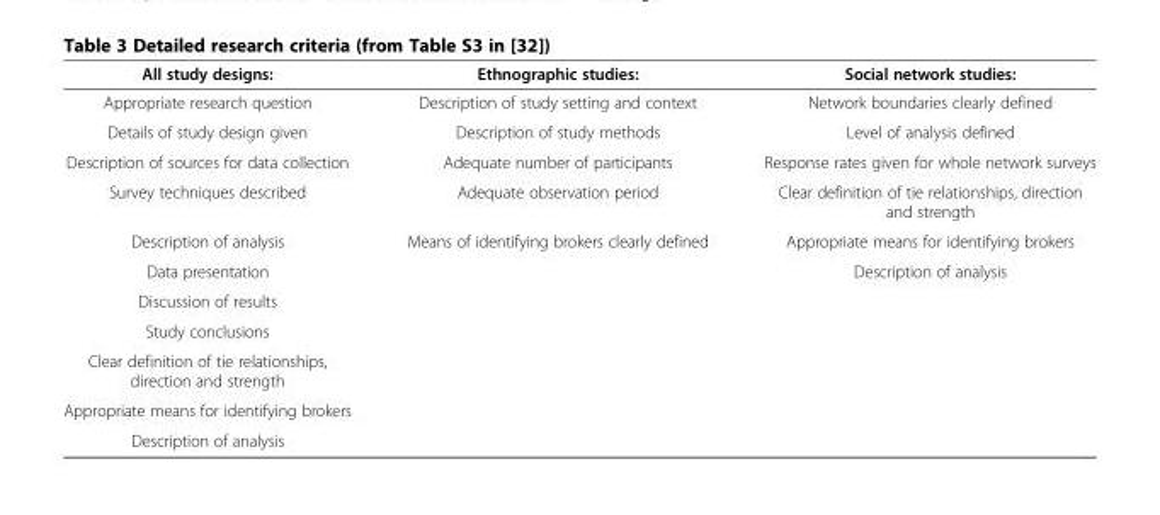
<table><thead><tr><td>All study designs:</td><td>Ethnographic studies:</td><td>Social network studies:</td></tr></thead><tbody><tr><td>Appropriate research question</td><td>Description of study setting and context</td><td>Network boundaries clearly defined</td></tr><tr><td>Details of study design given</td><td>Description of study methods</td><td>Level of analysis defined</td></tr><tr><td>Description of sources for data collection</td><td>Adequate number of participants</td><td>Response rates given for whole network surveys</td></tr><tr><td>Survey techniques described</td><td>Adequate observation period</td><td>Clear definition of tie relationships, direction and strength</td></tr><tr><td>Description of analysis</td><td>Means of identifying brokers clearly defined</td><td>Appropriate means for identifying brokers</td></tr><tr><td>Data presentation</td><td></td><td>Description of analysis</td></tr><tr><td colspan="3">Discussion of results</td></tr><tr><td colspan="3">Study conclusions</td></tr><tr><td colspan="3">Clear definition of tie relationships, direction and strength</td></tr><tr><td colspan="3">Appropriate means for identifying brokers</td></tr><tr><td>Description of analysis</td><td></td><td></td></tr></tbody></table>